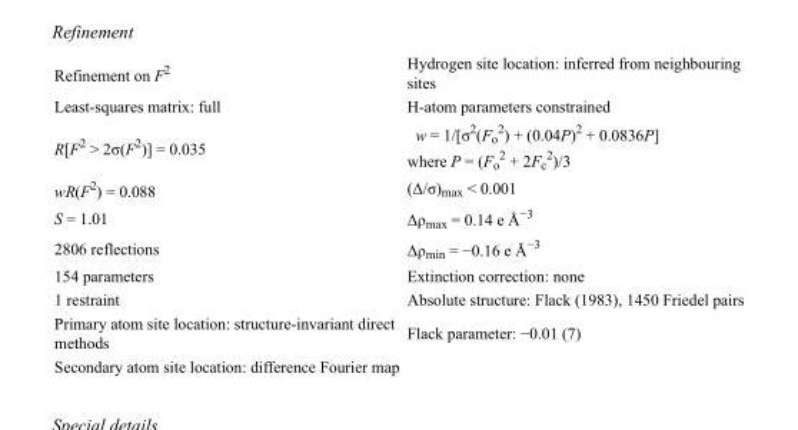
<table><tbody><tr><td>Refinement on F<sup>2</sup></td><td>Hydrogen site location: inferred from neighbouring sites</td></tr><tr><td>Least-squares matrix: full</td><td>H-atom parameters constrained</td></tr><tr><td>R[F<sup>2</sup> &gt; 2σ(F<sup>2</sup>)] = 0.035</td><td>w = 1/[σ<sup>2</sup>(F<sub>o</sub> <sup>2</sup>) + (0.04P)<sup>2</sup> + 0.0836P] where P = (F<sub>o</sub> <sup>2</sup> + 2F<sub>c</sub> <sup>2</sup>)/3</td></tr><tr><td>wR(F<sup>2</sup>) = 0.088</td><td>(Δ/σ)<sub>max</sub> &lt; 0.001</td></tr><tr><td>S = 1.01</td><td>Δρ<sub>max</sub> = 0.14 e Å<sup>−3</sup></td></tr><tr><td>2806 reflections</td><td>Δρ<sub>min</sub> = −0.16 e Å<sup>−3</sup></td></tr><tr><td>154 parameters</td><td>Extinction correction: none</td></tr><tr><td>1 restraint</td><td>Absolute structure: Flack (1983), 1450 Friedel pairs</td></tr><tr><td>Primary atom site location: structure-invariant direct methods</td><td>Flack parameter: −0.01 (7)</td></tr><tr><td>Secondary atom site location: difference Fourier map</td><td></td></tr></tbody></table>